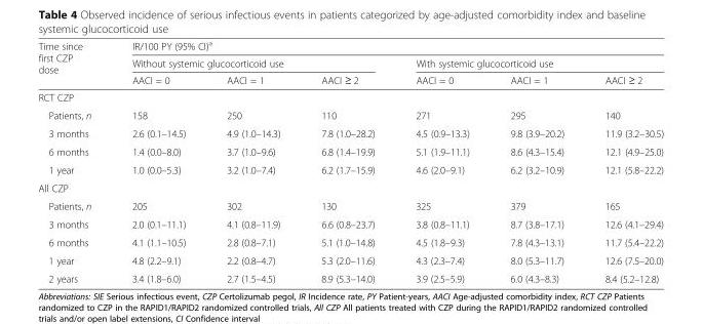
<table><thead><tr><td rowspan="3">Time since first CZP dose</td><td colspan="6">IR/100 PY (95% CI)<sup>a</sup></td></tr><tr><td colspan="3">Without systemic glucocorticoid use</td><td colspan="3">With systemic glucocorticoid use</td></tr><tr><td>AACI = 0</td><td>AACI = 1</td><td>AACI ≥ 2</td><td>AACI = 0</td><td>AACI = 1</td><td>AACI ≥ 2</td></tr></thead><tbody><tr><td colspan="7">RCT CZP</td></tr><tr><td>Patients, n</td><td>158</td><td>250</td><td>110</td><td>271</td><td>295</td><td>140</td></tr><tr><td>3 months</td><td>2.6 (0.1–14.5)</td><td>4.9 (1.0–14.3)</td><td>7.8 (1.0–28.2)</td><td>4.5 (0.9–13.3)</td><td>9.8 (3.9–20.2)</td><td>11.9 (3.2–30.5)</td></tr><tr><td>6 months</td><td>1.4 (0.0–8.0)</td><td>3.7 (1.0–9.6)</td><td>6.8 (1.4–19.9)</td><td>5.1 (1.9–11.1)</td><td>8.6 (4.3–15.4)</td><td>12.1 (4.9–25.0)</td></tr><tr><td>1 year</td><td>1.0 (0.0–5.3)</td><td>3.2 (1.0–7.4)</td><td>6.2 (1.7–15.9)</td><td>4.6 (2.0–9.1)</td><td>6.2 (3.2–10.9)</td><td>12.1 (5.8–22.2)</td></tr><tr><td colspan="7">All CZP</td></tr><tr><td>Patients, n</td><td>205</td><td>302</td><td>130</td><td>325</td><td>379</td><td>165</td></tr><tr><td>3 months</td><td>2.0 (0.1–11.1)</td><td>4.1 (0.8–11.9)</td><td>6.6 (0.8–23.7)</td><td>3.8 (0.8–11.1)</td><td>8.7 (3.8–17.1)</td><td>12.6 (4.1–29.4)</td></tr><tr><td>6 months</td><td>4.1 (1.1–10.5)</td><td>2.8 (0.8–7.1)</td><td>5.1 (1.0–14.8)</td><td>4.5 (1.8–9.3)</td><td>7.8 (4.3–13.1)</td><td>11.7 (5.4–22.2)</td></tr><tr><td>1 year</td><td>4.8 (2.2–9.1)</td><td>2.2 (0.8–4.7)</td><td>5.3 (2.0–11.6)</td><td>4.3 (2.3–7.4)</td><td>8.0 (5.3–11.7)</td><td>12.6 (7.5–20.0)</td></tr><tr><td>2 years</td><td>3.4 (1.8–6.0)</td><td>2.7 (1.5–4.5)</td><td>8.9 (5.3–14.0)</td><td>3.9 (2.5–5.9)</td><td>6.0 (4.3–8.3)</td><td>8.4 (5.2–12.8)</td></tr></tbody></table>